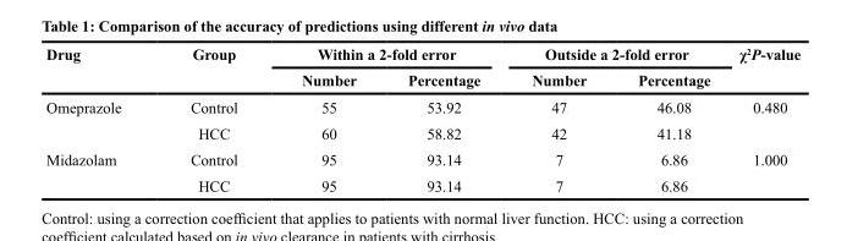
<table><thead><tr><td rowspan="2">Drug</td><td rowspan="2">Group</td><td colspan="2">Within a 2-fold error</td><td colspan="2">Outside a 2-fold error</td><td rowspan="2">χ<sup>2</sup>P-value</td></tr><tr><td>Number</td><td>Percentage</td><td>Number</td><td>Percentage</td></tr></thead><tbody><tr><td rowspan="2">Omeprazole</td><td>Control</td><td>55</td><td>53.92</td><td>47</td><td>46.08</td><td>0.480</td></tr><tr><td>HCC</td><td>60</td><td>58.82</td><td>42</td><td>41.18</td><td></td></tr><tr><td rowspan="2">Midazolam</td><td>Control</td><td>95</td><td>93.14</td><td>7</td><td>6.86</td><td>1.000</td></tr><tr><td>HCC</td><td>95</td><td>93.14</td><td>7</td><td>6.86</td><td></td></tr></tbody></table>